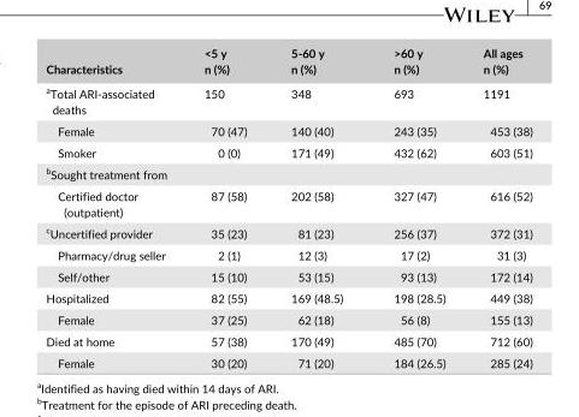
<table><thead><tr><td>Characteristics</td><td>&lt;5 y n (%)</td><td>5- 60 y n (%)</td><td>&gt;60 y n (%)</td><td>All ages n (%)</td></tr></thead><tbody><tr><td>aTotal ARI- associated deaths</td><td>150</td><td>348</td><td>693</td><td>1191</td></tr><tr><td>Female</td><td>70 (47)</td><td>140 (40)</td><td>243 (35)</td><td>453 (38)</td></tr><tr><td>Smoker</td><td>0 (0)</td><td>171 (49)</td><td>432 (62)</td><td>603 (51)</td></tr><tr><td colspan="5">bSought treatment from</td></tr><tr><td>Certified doctor (outpatient)</td><td>87 (58)</td><td>202 (58)</td><td>327 (47)</td><td>616 (52)</td></tr><tr><td>cUncertified provider</td><td>35 (23)</td><td>81 (23)</td><td>256 (37)</td><td>372 (31)</td></tr><tr><td>Pharmacy/drug seller</td><td>2 (1)</td><td>12 (3)</td><td>17 (2)</td><td>31 (3)</td></tr><tr><td>Self/other</td><td>15 (10)</td><td>53 (15)</td><td>93 (13)</td><td>172 (14)</td></tr><tr><td>Hospitalized</td><td>82 (55)</td><td>169 (48.5)</td><td>198 (28.5)</td><td>449 (38)</td></tr><tr><td>Female</td><td>37 (25)</td><td>62 (18)</td><td>56 (8)</td><td>155 (13)</td></tr><tr><td>Died at home</td><td>57 (38)</td><td>170 (49)</td><td>485 (70)</td><td>712 (60)</td></tr><tr><td>Female</td><td>30 (20)</td><td>71 (20)</td><td>184 (26.5)</td><td>285 (24)</td></tr></tbody></table>